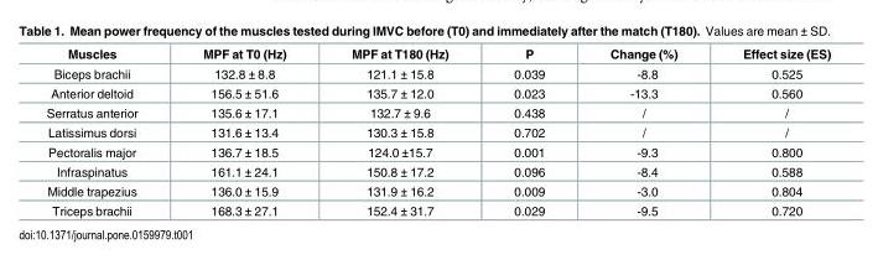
<table><thead><tr><td>Muscles</td><td>MPF at T0 (Hz)</td><td>MPF at T180 (Hz)</td><td>P</td><td>Change (%)</td><td>Effect size (ES)</td></tr></thead><tbody><tr><td>Biceps brachii</td><td>132.8 ± 8.8</td><td>121.1 ± 15.8</td><td>0.039</td><td>-8.8</td><td>0.525</td></tr><tr><td>Anterior deltoid</td><td>156.5 ± 51.6</td><td>135.7 ± 12.0</td><td>0.023</td><td>-13.3</td><td>0.560</td></tr><tr><td>Serratus anterior</td><td>135.6 ± 17.1</td><td>132.7 ± 9.6</td><td>0.438</td><td>/</td><td>/</td></tr><tr><td>Latissimus dorsi</td><td>131.6 ± 13.4</td><td>130.3 ± 15.8</td><td>0.702</td><td>/</td><td>/</td></tr><tr><td>Pectoralis major</td><td>136.7 ± 18.5</td><td>124.0 ±15.7</td><td>0.001</td><td>-9.3</td><td>0.800</td></tr><tr><td>Infraspinatus</td><td>161.1 ± 24.1</td><td>150.8 ± 17.2</td><td>0.096</td><td>-8.4</td><td>0.588</td></tr><tr><td>Middle trapezius</td><td>136.0 ± 15.9</td><td>131.9 ± 16.2</td><td>0.009</td><td>-3.0</td><td>0.804</td></tr><tr><td>Triceps brachii</td><td>168.3 ± 27.1</td><td>152.4 ± 31.7</td><td>0.029</td><td>-9.5</td><td>0.720</td></tr></tbody></table>